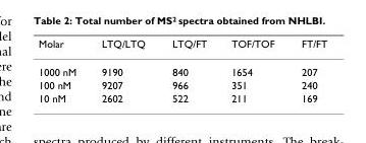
<table><thead><tr><td>Molar</td><td>LTQ/LTQ</td><td>LTQ/FT</td><td>TOF/TOF</td><td>FT/FT</td></tr></thead><tbody><tr><td>1000 nM</td><td>9190</td><td>840</td><td>1654</td><td>207</td></tr><tr><td>100 nM</td><td>9207</td><td>966</td><td>351</td><td>240</td></tr><tr><td>10 nM</td><td>2602</td><td>522</td><td>211</td><td>169</td></tr></tbody></table>